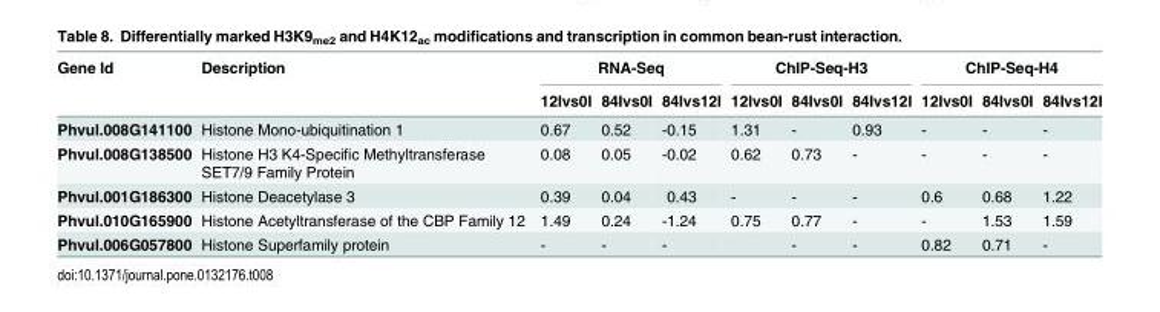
<table><thead><tr><td rowspan="2">Gene Id</td><td rowspan="2">Description</td><td colspan="3">RNA-Seq</td><td colspan="3">ChIP-Seq-H3</td><td colspan="3">ChIP-Seq-H4</td></tr><tr><td>12Ivs0I</td><td>84Ivs0I</td><td>84Ivs12I</td><td>12Ivs0I</td><td>84Ivs0I</td><td>84Ivs12I</td><td>12Ivs0I</td><td>84Ivs0I</td><td>84Ivs12I</td></tr></thead><tbody><tr><td>Phvul.008G141100</td><td>Histone Mono-ubiquitination 1</td><td>0.67</td><td>0.52</td><td>-0.15</td><td>1.31</td><td>-</td><td>0.93</td><td>-</td><td>-</td><td>-</td></tr><tr><td>Phvul.008G138500</td><td>Histone H3 K4-Specific Methyltransferase SET7/9 Family Protein</td><td>0.08</td><td>0.05</td><td>-0.02</td><td>0.62</td><td>0.73</td><td>-</td><td>-</td><td>-</td><td>-</td></tr><tr><td>Phvul.001G186300</td><td>Histone Deacetylase 3</td><td>0.39</td><td>0.04</td><td>0.43</td><td>-</td><td>-</td><td>-</td><td>0.6</td><td>0.68</td><td>1.22</td></tr><tr><td>Phvul.010G165900</td><td>Histone Acetyltransferase of the CBP Family 12</td><td>1.49</td><td>0.24</td><td>-1.24</td><td>0.75</td><td>0.77</td><td>-</td><td>-</td><td>1.53</td><td>1.59</td></tr><tr><td>Phvul.006G057800</td><td>Histone Superfamily protein</td><td>-</td><td>-</td><td>-</td><td></td><td>-</td><td>-</td><td>0.82</td><td>0.71</td><td>-</td></tr></tbody></table>